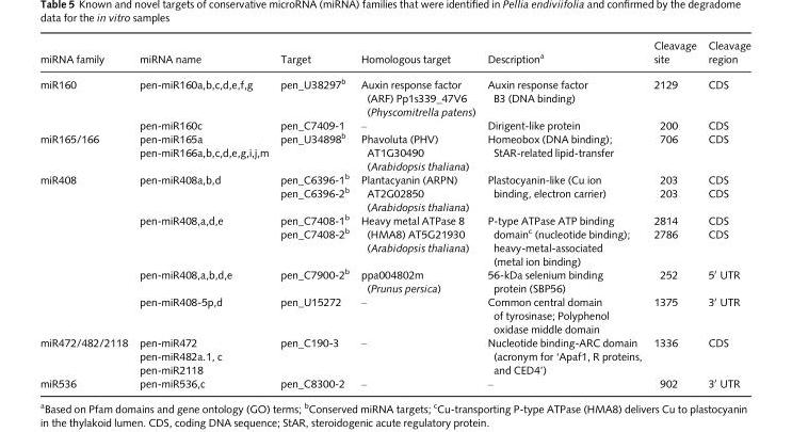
<table><thead><tr><td>miRNA family</td><td>miRNA name</td><td>Target</td><td>Homologous target</td><td>Description<sup>a</sup></td><td>Cleavage site</td><td>Cleavage region</td></tr></thead><tbody><tr><td rowspan="2">miR160</td><td>pen-miR160a,b,c,d,e,f,g</td><td>pen_U38297<sup>b</sup></td><td>Auxin response factor (ARF) Pp1s339_47V6 (Physcomitrella patens)</td><td>Auxin response factor B3 (DNA binding)</td><td>2129</td><td>CDS</td></tr><tr><td>pen-miR160c</td><td>pen_C7409-1</td><td>–</td><td>Dirigent-like protein</td><td>200</td><td>CDS</td></tr><tr><td rowspan="2">miR165/166</td><td>pen-miR165a</td><td rowspan="2">pen_U34898<sup>b</sup></td><td rowspan="2">Phavoluta (PHV) AT1G30490 (Arabidopsis thaliana)</td><td rowspan="2">Homeobox (DNA binding); StAR-related lipid-transfer</td><td rowspan="2">706</td><td rowspan="2">CDS</td></tr><tr><td>pen-miR166a,b,c,d,e,g,i,j,m</td></tr><tr><td rowspan="6">miR408</td><td rowspan="2">pen-miR408a,b,d</td><td>pen_C6396-1<sup>b</sup></td><td rowspan="2">Plantacyanin (ARPN) AT2G02850 (Arabidopsis thaliana)</td><td rowspan="2">Plastocyanin-like (Cu ion binding, electron carrier)</td><td>203</td><td>CDS</td></tr><tr><td>pen_C6396-2<sup>b</sup></td><td>203</td><td>CDS</td></tr><tr><td rowspan="2">pen-miR408,a,d,e</td><td>pen_C7408-1<sup>b</sup></td><td rowspan="2">Heavy metal ATPase 8 (HMA8) AT5G21930 (Arabidopsis thaliana)</td><td rowspan="2">P-type ATPase ATP binding domain<sup>c</sup> (nucleotide binding); heavy-metal-associated (metal ion binding)</td><td>2814</td><td>CDS</td></tr><tr><td>pen_C7408-2<sup>b</sup></td><td>2786</td><td>CDS</td></tr><tr><td>pen-miR408,a,b,d,e</td><td>pen_C7900-2<sup>b</sup></td><td>ppa004802m (Prunus persica)</td><td>56-kDa selenium binding protein (SBP56)</td><td>252</td><td>5′ UTR</td></tr><tr><td>pen-miR408-5p,d</td><td>pen_U15272</td><td>–</td><td>Common central domain of tyrosinase; Polyphenol oxidase middle domain</td><td>1375</td><td>3′ UTR</td></tr><tr><td rowspan="3">miR472/482/2118</td><td>pen-miR472</td><td rowspan="3">pen_C190-3</td><td rowspan="3">–</td><td rowspan="3">Nucleotide binding-ARC domain (acronym for ‘Apaf1, R proteins, and CED4’)</td><td rowspan="3">1336</td><td rowspan="3">CDS</td></tr><tr><td>pen-miR482a.1, c</td></tr><tr><td>pen-miR2118</td></tr><tr><td>miR536</td><td>pen-miR536,c</td><td>pen_C8300-2</td><td>–</td><td>–</td><td>902</td><td>3′ UTR</td></tr></tbody></table>